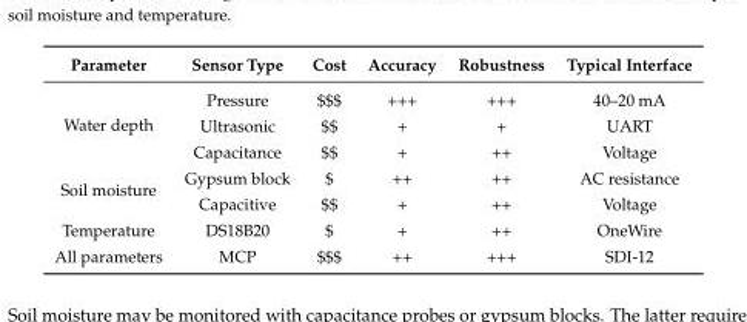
<table><thead><tr><td>Parameter</td><td>Sensor Type</td><td>Cost</td><td>Accuracy</td><td>Robustness</td><td>Typical Interface</td></tr></thead><tbody><tr><td rowspan="3">Water depth</td><td>Pressure</td><td>$$$</td><td>+++</td><td>+++</td><td>40–20 mA</td></tr><tr><td>Ultrasonic</td><td>$$</td><td>+</td><td>+</td><td>UART</td></tr><tr><td>Capacitance</td><td>$$</td><td>+</td><td>++</td><td>Voltage</td></tr><tr><td rowspan="2">Soil moisture</td><td>Gypsum block</td><td>$</td><td>++</td><td>++</td><td>AC resistance</td></tr><tr><td>Capacitive</td><td>$$</td><td>+</td><td>++</td><td>Voltage</td></tr><tr><td>Temperature</td><td>DS18B20</td><td>$</td><td>+</td><td>++</td><td>OneWire</td></tr><tr><td>All parameters</td><td>MCP</td><td>$$$</td><td>++</td><td>+++</td><td>SDI-12</td></tr></tbody></table>